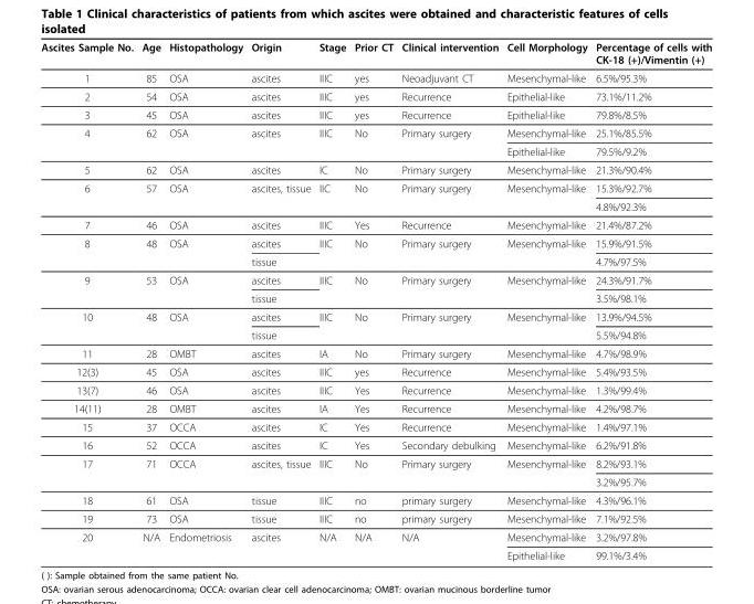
<table><thead><tr><td>Ascites Sample No.</td><td>Age</td><td>Histopathology</td><td>Origin</td><td>Stage</td><td>Prior CT</td><td>Clinical intervention</td><td>Cell Morphology</td><td>Percentage of cells with CK-18 (+)/Vimentin (+)</td></tr></thead><tbody><tr><td>1</td><td>85</td><td>OSA</td><td>ascites</td><td>IIIC</td><td>yes</td><td>Neoadjuvant CT</td><td>Mesenchymal-like</td><td>6.5%/95.3%</td></tr><tr><td>2</td><td>54</td><td>OSA</td><td>ascites</td><td>IIIC</td><td>yes</td><td>Recurrence</td><td>Epithelial-like</td><td>73.1%/11.2%</td></tr><tr><td>3</td><td>45</td><td>OSA</td><td>ascites</td><td>IIIC</td><td>yes</td><td>Recurrence</td><td>Epithelial-like</td><td>79.8%/8.5%</td></tr><tr><td rowspan="2">4</td><td>62</td><td>OSA</td><td>ascites</td><td>IIIC</td><td>No</td><td>Primary surgery</td><td>Mesenchymal-like</td><td>25.1%/85.5%</td></tr><tr><td></td><td></td><td></td><td></td><td></td><td></td><td>Epithelial-like</td><td>79.5%/9.2%</td></tr><tr><td>5</td><td>62</td><td>OSA</td><td>ascites</td><td>IC</td><td>No</td><td>Primary surgery</td><td>Mesenchymal-like</td><td>21.3%/90.4%</td></tr><tr><td rowspan="2">6</td><td>57</td><td>OSA</td><td>ascites, tissue</td><td>IIC</td><td>No</td><td>Primary surgery</td><td>Mesenchymal-like</td><td>15.3%/92.7%</td></tr><tr><td></td><td></td><td></td><td></td><td></td><td></td><td></td><td>4.8%/92.3%</td></tr><tr><td>7</td><td>46</td><td>OSA</td><td>ascites</td><td>IIIC</td><td>Yes</td><td>Recurrence</td><td>Mesenchymal-like</td><td>21.4%/87.2%</td></tr><tr><td rowspan="2">8</td><td>48</td><td>OSA</td><td>ascites</td><td>IIIC</td><td>No</td><td>Primary surgery</td><td>Mesenchymal-like</td><td>15.9%/91.5%</td></tr><tr><td></td><td></td><td>tissue</td><td></td><td></td><td></td><td></td><td>4.7%/97.5%</td></tr><tr><td rowspan="2">9</td><td>53</td><td>OSA</td><td>ascites</td><td>IIIC</td><td>No</td><td>Primary surgery</td><td>Mesenchymal-like</td><td>24.3%/91.7%</td></tr><tr><td></td><td></td><td>tissue</td><td></td><td></td><td></td><td></td><td>3.5%/98.1%</td></tr><tr><td rowspan="2">10</td><td>48</td><td>OSA</td><td>ascites</td><td>IIIC</td><td>No</td><td>Primary surgery</td><td>Mesenchymal-like</td><td>13.9%/94.5%</td></tr><tr><td></td><td></td><td>tissue</td><td></td><td></td><td></td><td></td><td>5.5%/94.8%</td></tr><tr><td>11</td><td>28</td><td>OMBT</td><td>ascites</td><td>IA</td><td>No</td><td>Primary surgery</td><td>Mesenchymal-like</td><td>4.7%/98.9%</td></tr><tr><td>12(3)</td><td>45</td><td>OSA</td><td>ascites</td><td>IIIC</td><td>yes</td><td>Recurrence</td><td>Mesenchymal-like</td><td>5.4%/93.5%</td></tr><tr><td>13(7)</td><td>46</td><td>OSA</td><td>ascites</td><td>IIIC</td><td>Yes</td><td>Recurrence</td><td>Mesenchymal-like</td><td>1.3%/99.4%</td></tr><tr><td>14(11)</td><td>28</td><td>OMBT</td><td>ascites</td><td>IA</td><td>Yes</td><td>Recurrence</td><td>Mesenchymal-like</td><td>4.2%/98.7%</td></tr><tr><td>15</td><td>37</td><td>OCCA</td><td>ascites</td><td>IC</td><td>Yes</td><td>Recurrence</td><td>Mesenchymal-like</td><td>1.4%/97.1%</td></tr><tr><td>16</td><td>52</td><td>OCCA</td><td>ascites</td><td>IC</td><td>Yes</td><td>Secondary debulking</td><td>Mesenchymal-like</td><td>6.2%/91.8%</td></tr><tr><td rowspan="2">17</td><td>71</td><td>OCCA</td><td>ascites, tissue</td><td>IIIC</td><td>No</td><td>Primary surgery</td><td>Mesenchymal-like</td><td>8.2%/93.1%</td></tr><tr><td></td><td></td><td></td><td></td><td></td><td></td><td></td><td>3.2%/95.7%</td></tr><tr><td>18</td><td>61</td><td>OSA</td><td>tissue</td><td>IIIC</td><td>no</td><td>primary surgery</td><td>Mesenchymal-like</td><td>4.3%/96.1%</td></tr><tr><td>19</td><td>73</td><td>OSA</td><td>tissue</td><td>IIIC</td><td>no</td><td>primary surgery</td><td>Mesenchymal-like</td><td>7.1%/92.5%</td></tr><tr><td rowspan="2">20</td><td>N/A</td><td>Endometriosis</td><td>ascites</td><td>N/A</td><td>N/A</td><td>N/A</td><td>Mesenchymal-like</td><td>3.2%/97.8%</td></tr><tr><td></td><td></td><td></td><td></td><td></td><td></td><td>Epithelial-like</td><td>99.1%/3.4%</td></tr></tbody></table>